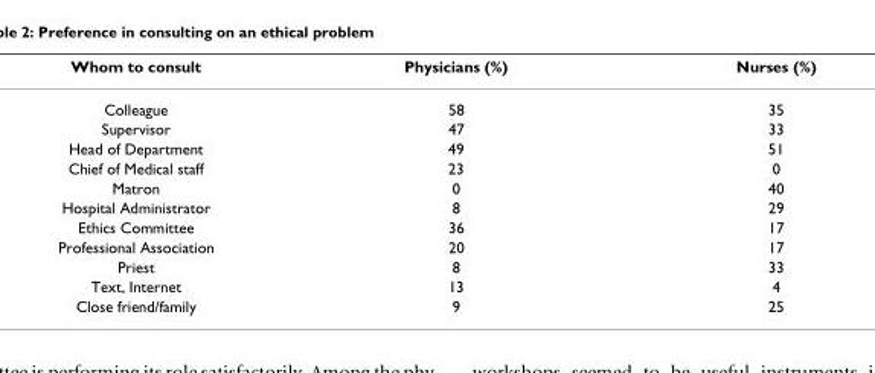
<table><thead><tr><td>Whom to consult</td><td>Physicians (%)</td><td>Nurses (%)</td></tr></thead><tbody><tr><td>Colleague</td><td>58</td><td>35</td></tr><tr><td>Supervisor</td><td>47</td><td>33</td></tr><tr><td>Head of Department</td><td>49</td><td>51</td></tr><tr><td>Chief of Medical staff</td><td>23</td><td>0</td></tr><tr><td>Matron</td><td>0</td><td>40</td></tr><tr><td>Hospital Administrator</td><td>8</td><td>29</td></tr><tr><td>Ethics Committee</td><td>36</td><td>17</td></tr><tr><td>Professional Association</td><td>20</td><td>17</td></tr><tr><td>Priest</td><td>8</td><td>33</td></tr><tr><td>Text, Internet</td><td>13</td><td>4</td></tr><tr><td>Close friend/family</td><td>9</td><td>25</td></tr></tbody></table>